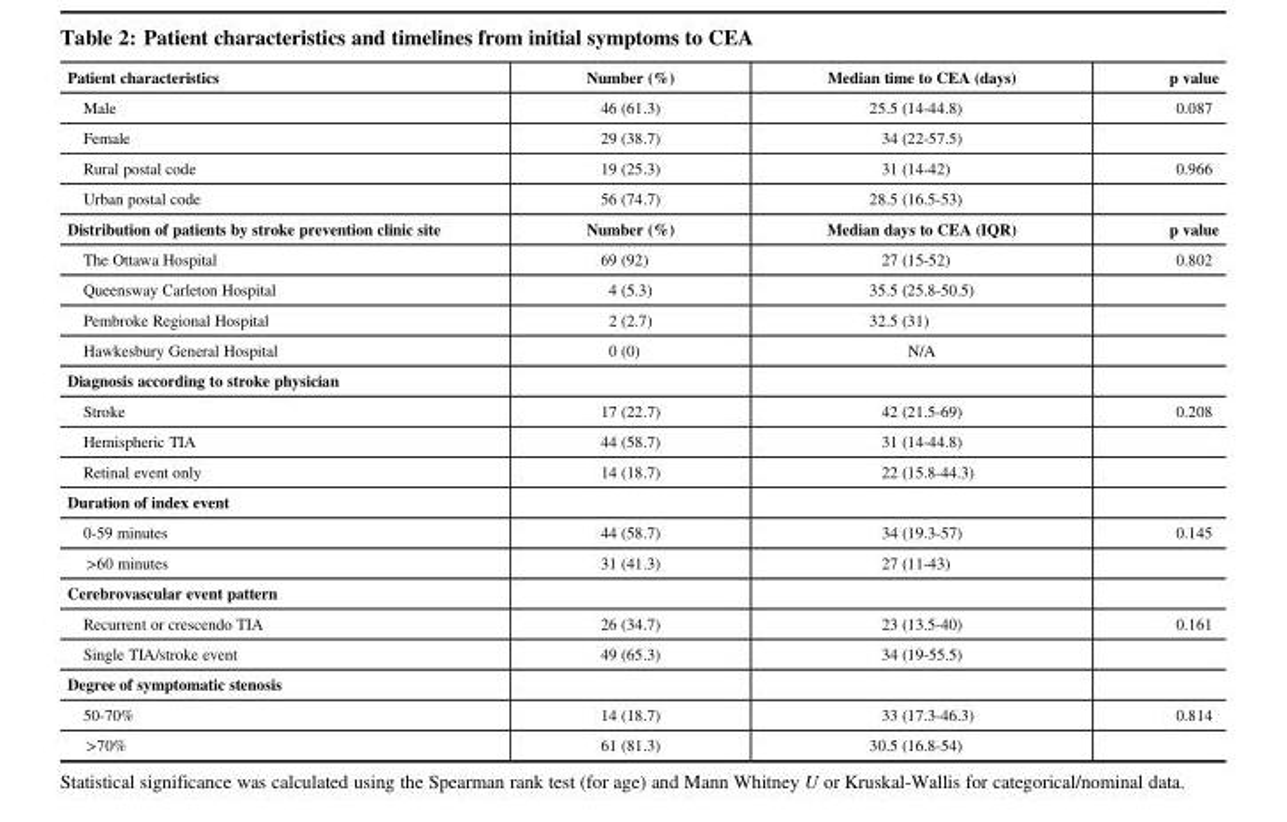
<table><thead><tr><td>Patient characteristics</td><td>Number (%)</td><td>Median time to CEA (days)</td><td>p value</td></tr></thead><tbody><tr><td>Male</td><td>46 (61.3)</td><td>25.5 (14-44.8)</td><td>0.087</td></tr><tr><td>Female</td><td>29 (38.7)</td><td>34 (22-57.5)</td><td></td></tr><tr><td>Rural postal code</td><td>19 (25.3)</td><td>31 (14-42)</td><td>0.966</td></tr><tr><td>Urban postal code</td><td>56 (74.7)</td><td>28.5 (16.5-53)</td><td></td></tr><tr><td>Distribution of patients by stroke prevention clinic site</td><td>Number (%)</td><td>Median days to CEA (IQR)</td><td>p value</td></tr><tr><td>The Ottawa Hospital</td><td>69 (92)</td><td>27 (15-52)</td><td>0.802</td></tr><tr><td>Queensway Carleton Hospital</td><td>4 (5.3)</td><td>35.5 (25.8-50.5)</td><td></td></tr><tr><td>Pembroke Regional Hospital</td><td>2 (2.7)</td><td>32.5 (31)</td><td></td></tr><tr><td>Hawkesbury General Hospital</td><td>0 (0)</td><td>N/A</td><td></td></tr><tr><td colspan="4">Diagnosis according to stroke physician</td></tr><tr><td>Stroke</td><td>17 (22.7)</td><td>42 (21.5-69)</td><td>0.208</td></tr><tr><td>Hemispheric TIA</td><td>44 (58.7)</td><td>31 (14-44.8)</td><td></td></tr><tr><td>Retinal event only</td><td>14 (18.7)</td><td>22 (15.8-44.3)</td><td></td></tr><tr><td colspan="4">Duration of index event</td></tr><tr><td>0-59 minutes</td><td>44 (58.7)</td><td>34 (19.3-57)</td><td>0.145</td></tr><tr><td>&gt;60 minutes</td><td>31 (41.3)</td><td>27 (11-43)</td><td></td></tr><tr><td colspan="4">Cerebrovascular event pattern</td></tr><tr><td>Recurrent or crescendo TIA</td><td>26 (34.7)</td><td>23 (13.5-40)</td><td>0.161</td></tr><tr><td>Single TIA/stroke event</td><td>49 (65.3)</td><td>34 (19-55.5)</td><td></td></tr><tr><td colspan="4">Degree of symptomatic stenosis</td></tr><tr><td>50-70%</td><td>14 (18.7)</td><td>33 (17.3-46.3)</td><td>0.814</td></tr><tr><td>&gt;70%</td><td>61 (81.3)</td><td>30.5 (16.8-54)</td><td></td></tr></tbody></table>